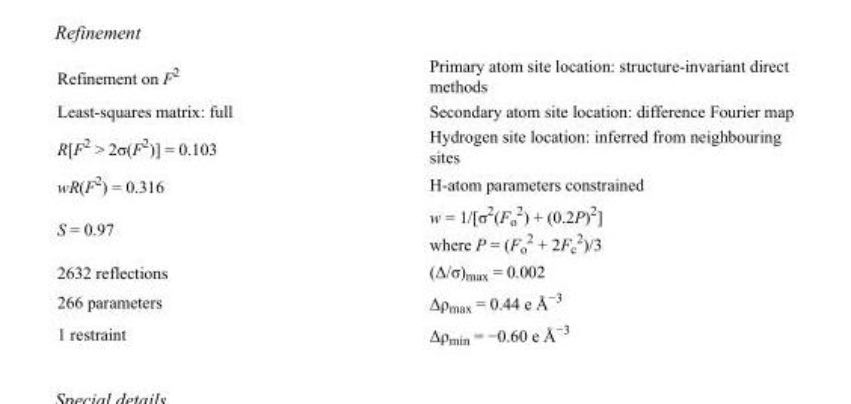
<table><tbody><tr><td>Refinement on F<sup>2</sup></td><td>Primary atom site location: structure-invariant direct methods</td></tr><tr><td>Least-squares matrix: full</td><td>Secondary atom site location: difference Fourier map</td></tr><tr><td>R[F<sup>2</sup> &gt; 2σ(F<sup>2</sup>)] = 0.103</td><td>Hydrogen site location: inferred from neighbouring sites</td></tr><tr><td>wR(F<sup>2</sup>) = 0.316</td><td>H-atom parameters constrained</td></tr><tr><td>S = 0.97</td><td>w = 1/[σ<sup>2</sup>(F<sub>o</sub> <sup>2</sup>) + (0.2P)<sup>2</sup>] where P = (F<sub>o</sub> <sup>2</sup> + 2F<sub>c</sub> <sup>2</sup>)/3</td></tr><tr><td>2632 reflections</td><td>(Δ/σ)<sub>max</sub> = 0.002</td></tr><tr><td>266 parameters</td><td>Δρ<sub>max</sub> = 0.44 e Å<sup>−3</sup></td></tr><tr><td>1 restraint</td><td>Δρ<sub>min</sub> = −0.60 e Å<sup>−3</sup></td></tr></tbody></table>